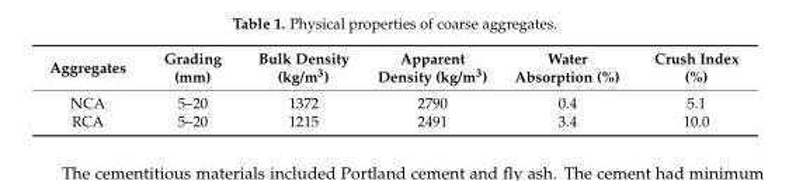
<table><thead><tr><td>Aggregates</td><td>Grading (mm)</td><td>Bulk Density (kg/m<sup>3</sup>)</td><td>Apparent Density (kg/m<sup>3</sup>)</td><td>Water Absorption (%)</td><td>Crush Index (%)</td></tr></thead><tbody><tr><td>NCA</td><td>5–20</td><td>1372</td><td>2790</td><td>0.4</td><td>5.1</td></tr><tr><td>RCA</td><td>5–20</td><td>1215</td><td>2491</td><td>3.4</td><td>10.0</td></tr></tbody></table>